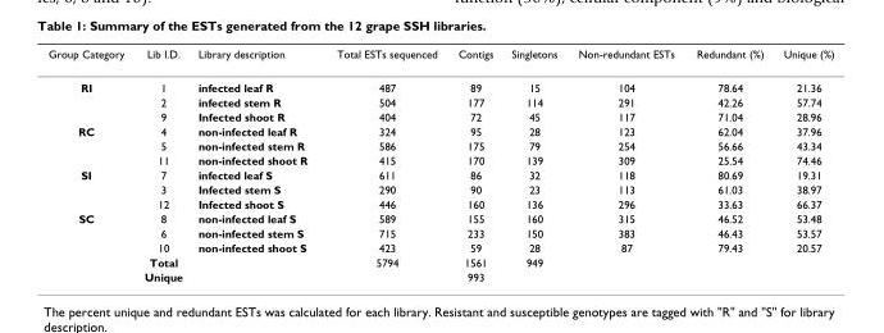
<table><thead><tr><td>Group Category</td><td>Lib I.D.</td><td>Library description</td><td>Total ESTs sequenced</td><td>Contigs</td><td>Singletons</td><td>Non-redundant ESTs</td><td>Redundant (%)</td><td>Unique (%)</td></tr></thead><tbody><tr><td rowspan="3">RI</td><td>1</td><td>infected leaf R</td><td>487</td><td>89</td><td>15</td><td>104</td><td>78.64</td><td>21.36</td></tr><tr><td>2</td><td>infected stem R</td><td>504</td><td>177</td><td>114</td><td>291</td><td>42.26</td><td>57.74</td></tr><tr><td>9</td><td>Infected shoot R</td><td>404</td><td>72</td><td>45</td><td>117</td><td>71.04</td><td>28.96</td></tr><tr><td rowspan="3">RC</td><td>4</td><td>non-infected leaf R</td><td>324</td><td>95</td><td>28</td><td>123</td><td>62.04</td><td>37.96</td></tr><tr><td>5</td><td>non-infected stem R</td><td>586</td><td>175</td><td>79</td><td>254</td><td>56.66</td><td>43.34</td></tr><tr><td>11</td><td>non-infected shoot R</td><td>415</td><td>170</td><td>139</td><td>309</td><td>25.54</td><td>74.46</td></tr><tr><td rowspan="3">SI</td><td>7</td><td>infected leaf S</td><td>611</td><td>86</td><td>32</td><td>118</td><td>80.69</td><td>19.31</td></tr><tr><td>3</td><td>Infected stem S</td><td>290</td><td>90</td><td>23</td><td>113</td><td>61.03</td><td>38.97</td></tr><tr><td>12</td><td>Infected shoot S</td><td>446</td><td>160</td><td>136</td><td>296</td><td>33.63</td><td>66.37</td></tr><tr><td rowspan="5">SC</td><td>8</td><td>non-infected leaf S</td><td>589</td><td>155</td><td>160</td><td>315</td><td>46.52</td><td>53.48</td></tr><tr><td>6</td><td>non-infected stem S</td><td>715</td><td>233</td><td>150</td><td>383</td><td>46.43</td><td>53.57</td></tr><tr><td>10</td><td>non-infected shoot S</td><td>423</td><td>59</td><td>28</td><td>87</td><td>79.43</td><td>20.57</td></tr><tr><td>Total</td><td></td><td>5794</td><td>1561</td><td>949</td><td></td><td></td><td></td></tr><tr><td>Unique</td><td></td><td></td><td>993</td><td></td><td></td><td></td><td></td></tr></tbody></table>